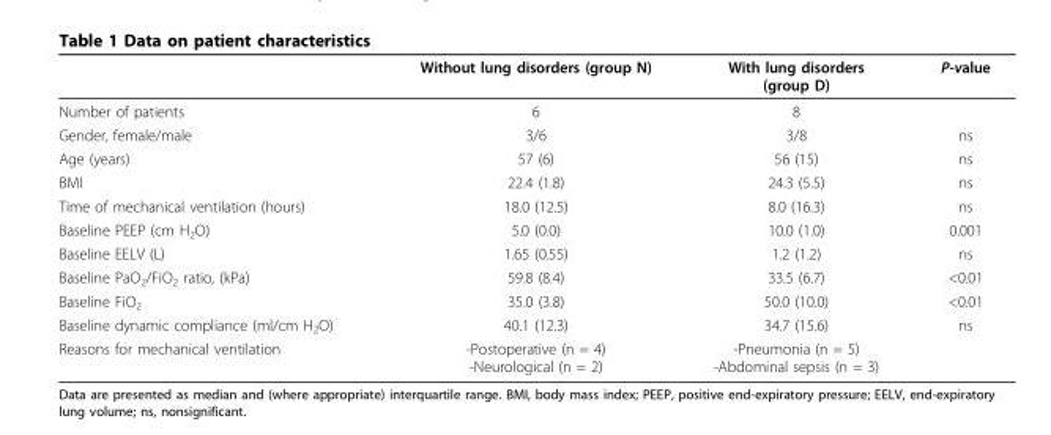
<table><thead><tr><td></td><td>Without lung disorders (group N)</td><td>With lung disorders (group D)</td><td>P-value</td></tr></thead><tbody><tr><td>Number of patients</td><td>6</td><td>8</td><td></td></tr><tr><td>Gender, female/male</td><td>3/6</td><td>3/8</td><td>ns</td></tr><tr><td>Age (years)</td><td>57 (6)</td><td>56 (15)</td><td>ns</td></tr><tr><td>BMI</td><td>22.4 (1.8)</td><td>24.3 (5.5)</td><td>ns</td></tr><tr><td>Time of mechanical ventilation (hours)</td><td>18.0 (12.5)</td><td>8.0 (16.3)</td><td>ns</td></tr><tr><td>Baseline PEEP (cm H<sub>2</sub>O)</td><td>5.0 (0.0)</td><td>10.0 (1.0)</td><td>0.001</td></tr><tr><td>Baseline EELV (L)</td><td>1.65 (0.55)</td><td>1.2 (1.2)</td><td>ns</td></tr><tr><td>Baseline PaO<sub>2</sub>/FiO<sub>2</sub> ratio, (kPa)</td><td>59.8 (8.4)</td><td>33.5 (6.7)</td><td>&lt;0.01</td></tr><tr><td>Baseline FiO<sub>2</sub></td><td>35.0 (3.8)</td><td>50.0 (10.0)</td><td>&lt;0.01</td></tr><tr><td>Baseline dynamic compliance (ml/cm H<sub>2</sub>O)</td><td>40.1 (12.3)</td><td>34.7 (15.6)</td><td>ns</td></tr><tr><td>Reasons for mechanical ventilation</td><td>-Postoperative (n = 4) -Neurological (n = 2)</td><td>-Pneumonia (n = 5) -Abdominal sepsis (n = 3)</td><td></td></tr></tbody></table>